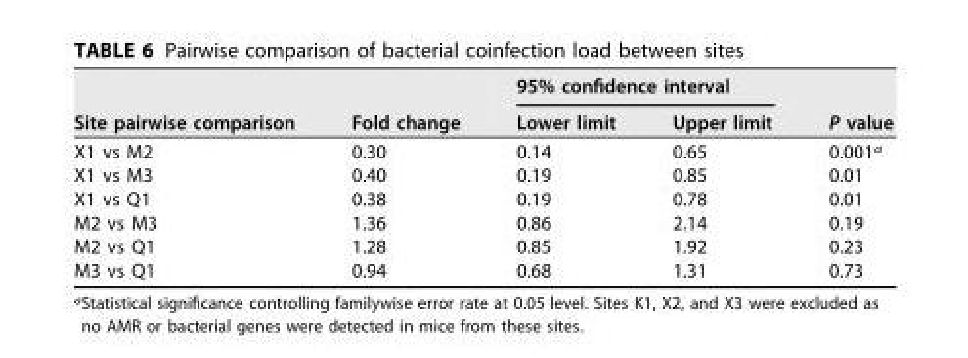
<table><thead><tr><td rowspan="2">Site pairwise comparison</td><td rowspan="2">Fold change</td><td colspan="2">95% confidence interval</td><td rowspan="2">P value</td></tr><tr><td>Lower limit</td><td>Upper limit</td></tr></thead><tbody><tr><td>X1 vs M2</td><td>0.30</td><td>0.14</td><td>0.65</td><td>0.001<sup>a</sup></td></tr><tr><td>X1 vs M3</td><td>0.40</td><td>0.19</td><td>0.85</td><td>0.01</td></tr><tr><td>X1 vs Q1</td><td>0.38</td><td>0.19</td><td>0.78</td><td>0.01</td></tr><tr><td>M2 vs M3</td><td>1.36</td><td>0.86</td><td>2.14</td><td>0.19</td></tr><tr><td>M2 vs Q1</td><td>1.28</td><td>0.85</td><td>1.92</td><td>0.23</td></tr><tr><td>M3 vs Q1</td><td>0.94</td><td>0.68</td><td>1.31</td><td>0.73</td></tr></tbody></table>